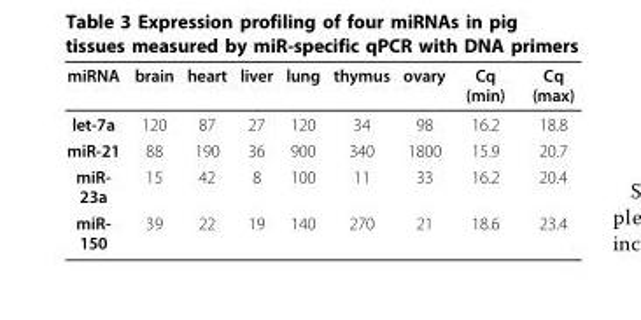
<table><thead><tr><td>miRNA</td><td>brain</td><td>heart</td><td>liver</td><td>lung</td><td>thymus</td><td>ovary</td><td>Cq (min)</td><td>Cq (max)</td></tr></thead><tbody><tr><td>let-7a</td><td>120</td><td>87</td><td>27</td><td>120</td><td>34</td><td>98</td><td>16.2</td><td>18.8</td></tr><tr><td>miR-21</td><td>88</td><td>190</td><td>36</td><td>900</td><td>340</td><td>1800</td><td>15.9</td><td>20.7</td></tr><tr><td>miR- 23a</td><td>15</td><td>42</td><td>8</td><td>100</td><td>11</td><td>33</td><td>16.2</td><td>20.4</td></tr><tr><td>miR- 150</td><td>39</td><td>22</td><td>19</td><td>140</td><td>270</td><td>21</td><td>18.6</td><td>23.4</td></tr></tbody></table>